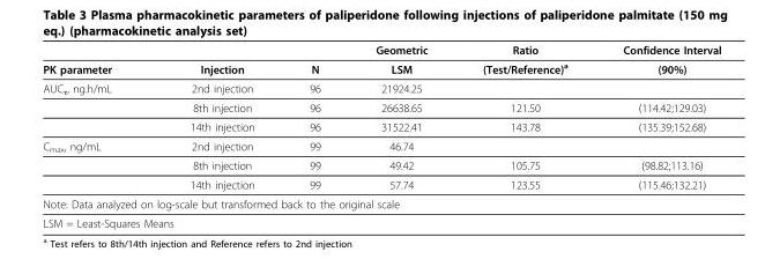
<table><thead><tr><td></td><td></td><td></td><td>Geometric</td><td>Ratio</td><td>Confidence Interval</td></tr></thead><tbody><tr><td>PK parameter</td><td>Injection</td><td>N</td><td>LSM</td><td>(Test/Reference)<sup>a</sup></td><td>(90%)</td></tr><tr><td rowspan="3">AUC<sub>τ</sub>, ng.h/mL</td><td>2nd injection</td><td>96</td><td>21924.25</td><td></td><td></td></tr><tr><td>8th injection</td><td>96</td><td>26638.65</td><td>121.50</td><td>(114.42;129.03)</td></tr><tr><td>14th injection</td><td>96</td><td>31522.41</td><td>143.78</td><td>(135.39;152.68)</td></tr><tr><td rowspan="3">C<sub>max</sub>, ng/mL</td><td>2nd injection</td><td>99</td><td>46.74</td><td></td><td></td></tr><tr><td>8th injection</td><td>99</td><td>49.42</td><td>105.75</td><td>(98.82;113.16)</td></tr><tr><td>14th injection</td><td>99</td><td>57.74</td><td>123.55</td><td>(115.46;132.21)</td></tr><tr><td colspan="6">Note: Data analyzed on log-scale but transformed back to the original scale</td></tr><tr><td colspan="6">LSM = Least-Squares Means</td></tr></tbody></table>